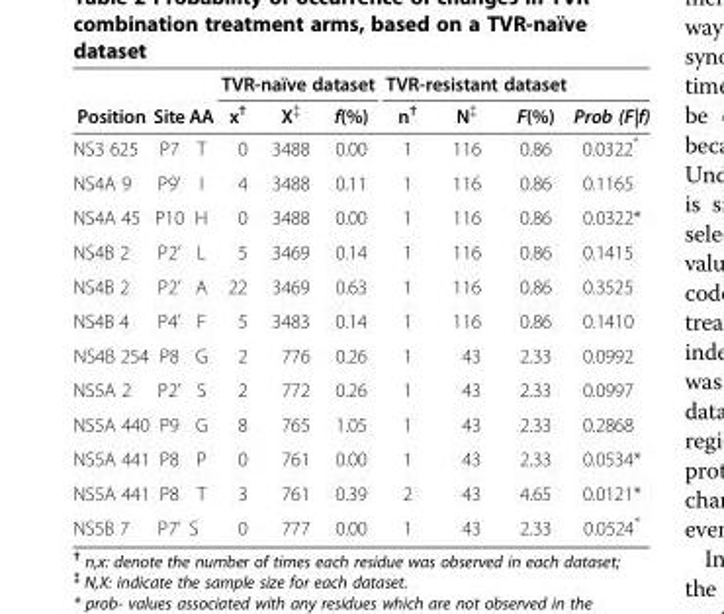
<table><thead><tr><td rowspan="2">Position</td><td rowspan="2">Site</td><td rowspan="2">AA</td><td colspan="3">TVR-naïve dataset</td><td colspan="3">TVR-resistant dataset</td><td rowspan="2">Prob (F|f)</td></tr><tr><td>x<sup>†</sup></td><td>X<sup>‡</sup></td><td>f(%)</td><td>n<sup>†</sup></td><td>N<sup>‡</sup></td><td>F(%)</td></tr></thead><tbody><tr><td>NS3 625</td><td>P7</td><td>T</td><td>0</td><td>3488</td><td>0.00</td><td>1</td><td>116</td><td>0.86</td><td>0.0322*</td></tr><tr><td>NS4A 9</td><td>P9’</td><td>I</td><td>4</td><td>3488</td><td>0.11</td><td>1</td><td>116</td><td>0.86</td><td>0.1165</td></tr><tr><td>NS4A 45</td><td>P10</td><td>H</td><td>0</td><td>3488</td><td>0.00</td><td>1</td><td>116</td><td>0.86</td><td>0.0322*</td></tr><tr><td>NS4B 2</td><td>P2’</td><td>L</td><td>5</td><td>3469</td><td>0.14</td><td>1</td><td>116</td><td>0.86</td><td>0.1415</td></tr><tr><td>NS4B 2</td><td>P2’</td><td>A</td><td>22</td><td>3469</td><td>0.63</td><td>1</td><td>116</td><td>0.86</td><td>0.3525</td></tr><tr><td>NS4B 4</td><td>P4’</td><td>F</td><td>5</td><td>3483</td><td>0.14</td><td>1</td><td>116</td><td>0.86</td><td>0.1410</td></tr><tr><td>NS4B 254</td><td>P8</td><td>G</td><td>2</td><td>776</td><td>0.26</td><td>1</td><td>43</td><td>2.33</td><td>0.0992</td></tr><tr><td>NS5A 2</td><td>P2’</td><td>S</td><td>2</td><td>772</td><td>0.26</td><td>1</td><td>43</td><td>2.33</td><td>0.0997</td></tr><tr><td>NS5A 440</td><td>P9</td><td>G</td><td>8</td><td>765</td><td>1.05</td><td>1</td><td>43</td><td>2.33</td><td>0.2868</td></tr><tr><td>NS5A 441</td><td>P8</td><td>P</td><td>0</td><td>761</td><td>0.00</td><td>1</td><td>43</td><td>2.33</td><td>0.0534*</td></tr><tr><td>NS5A 441</td><td>P8</td><td>T</td><td>3</td><td>761</td><td>0.39</td><td>2</td><td>43</td><td>4.65</td><td>0.0121*</td></tr><tr><td>NS5B 7</td><td>P7’</td><td>S</td><td>0</td><td>777</td><td>0.00</td><td>1</td><td>43</td><td>2.33</td><td>0.0524*</td></tr></tbody></table>